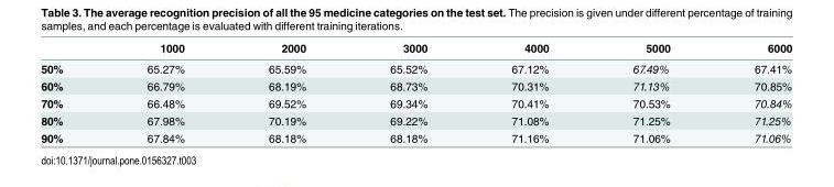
<table><thead><tr><td></td><td>1000</td><td>2000</td><td>3000</td><td>4000</td><td>5000</td><td>6000</td></tr></thead><tbody><tr><td>50%</td><td>65.27%</td><td>65.59%</td><td>65.52%</td><td>67.12%</td><td>67.49%</td><td>67.41%</td></tr><tr><td>60%</td><td>66.79%</td><td>68.19%</td><td>68.73%</td><td>70.31%</td><td>71.13%</td><td>70.85%</td></tr><tr><td>70%</td><td>66.48%</td><td>69.52%</td><td>69.34%</td><td>70.41%</td><td>70.53%</td><td>70.84%</td></tr><tr><td>80%</td><td>67.98%</td><td>70.19%</td><td>69.22%</td><td>71.08%</td><td>71.25%</td><td>71.25%</td></tr><tr><td>90%</td><td>67.84%</td><td>68.18%</td><td>68.18%</td><td>71.16%</td><td>71.06%</td><td>71.06%</td></tr></tbody></table>